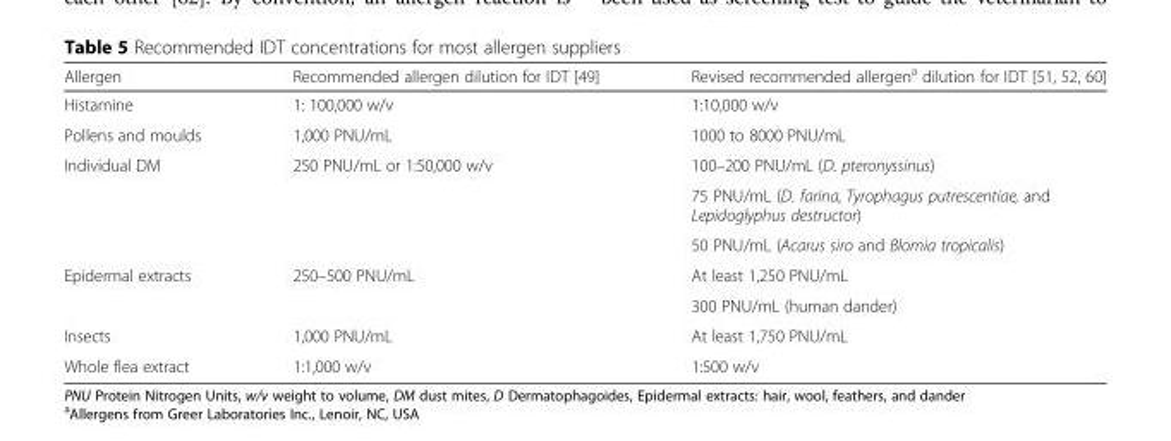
<table><thead><tr><td>Allergen</td><td>Recommended allergen dilution for IDT [49]</td><td>Revised recommended allergen<sup>a</sup> dilution for IDT [51, 52, 60]</td></tr></thead><tbody><tr><td>Histamine</td><td>1: 100,000 w/v</td><td>1:10,000 w/v</td></tr><tr><td>Pollens and moulds</td><td>1,000 PNU/mL</td><td>1000 to 8000 PNU/mL</td></tr><tr><td rowspan="3">Individual DM</td><td rowspan="3">250 PNU/mL or 1:50,000 w/v</td><td>100–200 PNU/mL (D. pteronyssinus)</td></tr><tr><td>75 PNU/mL (D. farina, Tyrophagus putrescentiae, and Lepidoglyphus destructor)</td></tr><tr><td>50 PNU/mL (Acarus siro and Blomia tropicalis)</td></tr><tr><td rowspan="2">Epidermal extracts</td><td rowspan="2">250–500 PNU/mL</td><td>At least 1,250 PNU/mL</td></tr><tr><td>300 PNU/mL (human dander)</td></tr><tr><td>Insects</td><td>1,000 PNU/mL</td><td>At least 1,750 PNU/mL</td></tr><tr><td>Whole flea extract</td><td>1:1,000 w/v</td><td>1:500 w/v</td></tr></tbody></table>